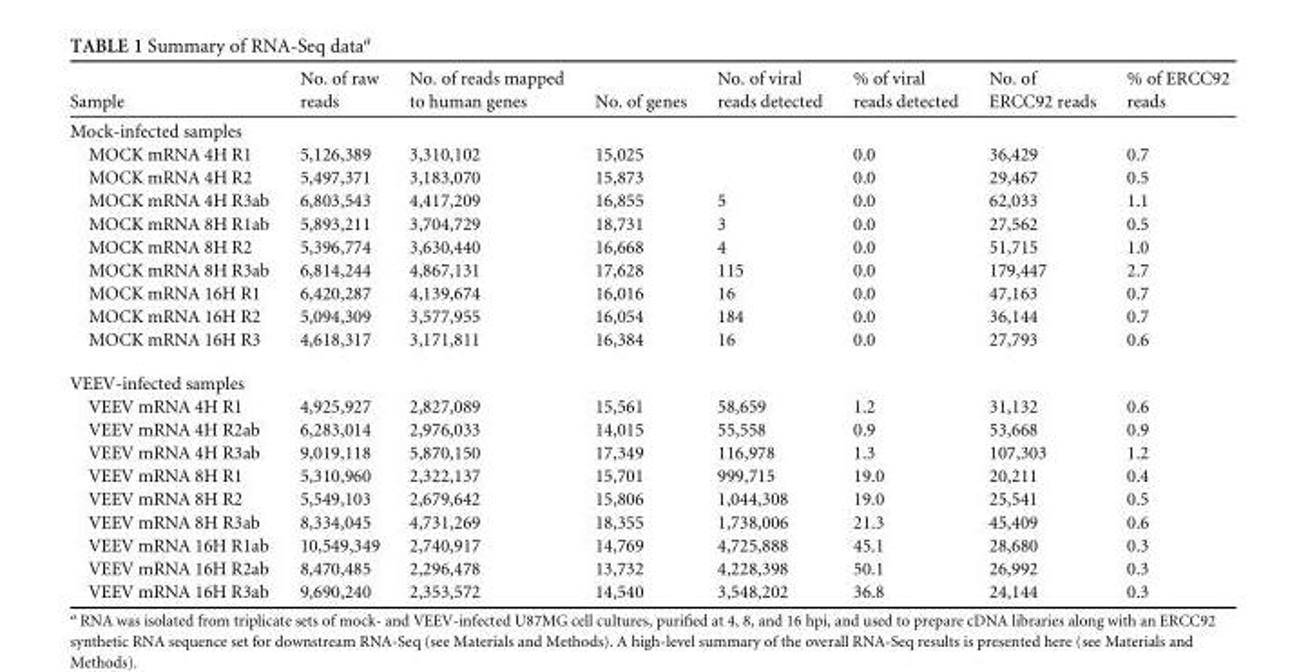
<table><thead><tr><td>Sample</td><td>No. of raw reads</td><td>No. of reads mapped to human genes</td><td>No. of genes</td><td>No. of viral reads detected</td><td>% of viral reads detected</td><td>No. of ERCC92 reads</td><td>% of ERCC92 reads</td></tr></thead><tbody><tr><td colspan="8">Mock-infected samples</td></tr><tr><td>MOCK mRNA 4H R1</td><td>5,126,389</td><td>3,310,102</td><td>15,025</td><td></td><td>0.0</td><td>36,429</td><td>0.7</td></tr><tr><td>MOCK mRNA 4H R2</td><td>5,497,371</td><td>3,183,070</td><td>15,873</td><td></td><td>0.0</td><td>29,467</td><td>0.5</td></tr><tr><td>MOCK mRNA 4H R3ab</td><td>6,803,543</td><td>4,417,209</td><td>16,855</td><td>5</td><td>0.0</td><td>62,033</td><td>1.1</td></tr><tr><td>MOCK mRNA 8H R1ab</td><td>5,893,211</td><td>3,704,729</td><td>18,731</td><td>3</td><td>0.0</td><td>27,562</td><td>0.5</td></tr><tr><td>MOCK mRNA 8H R2</td><td>5,396,774</td><td>3,630,440</td><td>16,668</td><td>4</td><td>0.0</td><td>51,715</td><td>1.0</td></tr><tr><td>MOCK mRNA 8H R3ab</td><td>6,814,244</td><td>4,867,131</td><td>17,628</td><td>115</td><td>0.0</td><td>179,447</td><td>2.7</td></tr><tr><td>MOCK mRNA 16H R1</td><td>6,420,287</td><td>4,139,674</td><td>16,016</td><td>16</td><td>0.0</td><td>47,163</td><td>0.7</td></tr><tr><td>MOCK mRNA 16H R2</td><td>5,094,309</td><td>3,577,955</td><td>16,054</td><td>184</td><td>0.0</td><td>36,144</td><td>0.7</td></tr><tr><td>MOCK mRNA 16H R3</td><td>4,618,317</td><td>3,171,811</td><td>16,384</td><td>16</td><td>0.0</td><td>27,793</td><td>0.6</td></tr><tr><td colspan="8">VEEV-infected samples</td></tr><tr><td>VEEV mRNA 4H R1</td><td>4,925,927</td><td>2,827,089</td><td>15,561</td><td>58,659</td><td>1.2</td><td>31,132</td><td>0.6</td></tr><tr><td>VEEV mRNA 4H R2ab</td><td>6,283,014</td><td>2,976,033</td><td>14,015</td><td>55,558</td><td>0.9</td><td>53,668</td><td>0.9</td></tr><tr><td>VEEV mRNA 4H R3ab</td><td>9,019,118</td><td>5,870,150</td><td>17,349</td><td>116,978</td><td>1.3</td><td>107,303</td><td>1.2</td></tr><tr><td>VEEV mRNA 8H R1</td><td>5,310,960</td><td>2,322,137</td><td>15,701</td><td>999,715</td><td>19.0</td><td>20,211</td><td>0.4</td></tr><tr><td>VEEV mRNA 8H R2</td><td>5,549,103</td><td>2,679,642</td><td>15,806</td><td>1,044,308</td><td>19.0</td><td>25,541</td><td>0.5</td></tr><tr><td>VEEV mRNA 8H R3ab</td><td>8,334,045</td><td>4,731,269</td><td>18,355</td><td>1,738,006</td><td>21.3</td><td>45,409</td><td>0.6</td></tr><tr><td>VEEV mRNA 16H R1ab</td><td>10,549,349</td><td>2,740,917</td><td>14,769</td><td>4,725,888</td><td>45.1</td><td>28,680</td><td>0.3</td></tr><tr><td>VEEV mRNA 16H R2ab</td><td>8,470,485</td><td>2,296,478</td><td>13,732</td><td>4,228,398</td><td>50.1</td><td>26,992</td><td>0.3</td></tr><tr><td>VEEV mRNA 16H R3ab</td><td>9,690,240</td><td>2,353,572</td><td>14,540</td><td>3,548,202</td><td>36.8</td><td>24,144</td><td>0.3</td></tr></tbody></table>